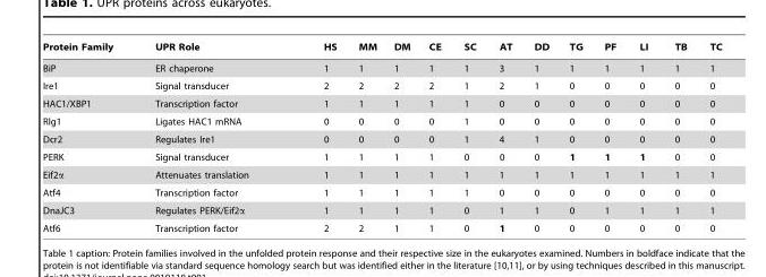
<table><thead><tr><td>Protein Family</td><td>UPR Role</td><td>HS</td><td>MM</td><td>DM</td><td>CE</td><td>SC</td><td>AT</td><td>DD</td><td>TG</td><td>PF</td><td>LI</td><td>TB</td><td>TC</td></tr></thead><tbody><tr><td>BiP</td><td>ER chaperone</td><td>1</td><td>1</td><td>1</td><td>1</td><td>1</td><td>3</td><td>1</td><td>1</td><td>1</td><td>1</td><td>1</td><td>1</td></tr><tr><td>Ire1</td><td>Signal transducer</td><td>2</td><td>2</td><td>2</td><td>2</td><td>1</td><td>2</td><td>1</td><td>0</td><td>0</td><td>0</td><td>0</td><td>0</td></tr><tr><td>HAC1/XBP1</td><td>Transcription factor</td><td>1</td><td>1</td><td>1</td><td>1</td><td>1</td><td>0</td><td>0</td><td>0</td><td>0</td><td>0</td><td>0</td><td>0</td></tr><tr><td>Rlg1</td><td>Ligates HAC1 mRNA</td><td>0</td><td>0</td><td>0</td><td>0</td><td>1</td><td>0</td><td>0</td><td>0</td><td>0</td><td>0</td><td>0</td><td>0</td></tr><tr><td>Dcr2</td><td>Regulates Ire1</td><td>0</td><td>0</td><td>0</td><td>0</td><td>1</td><td>4</td><td>1</td><td>0</td><td>0</td><td>0</td><td>0</td><td>0</td></tr><tr><td>PERK</td><td>Signal transducer</td><td>1</td><td>1</td><td>1</td><td>1</td><td>0</td><td>0</td><td>0</td><td>1</td><td>1</td><td>1</td><td>0</td><td>0</td></tr><tr><td>Eif2α</td><td>Attenuates translation</td><td>1</td><td>1</td><td>1</td><td>1</td><td>1</td><td>1</td><td>1</td><td>1</td><td>1</td><td>1</td><td>1</td><td>1</td></tr><tr><td>Atf4</td><td>Transcription factor</td><td>1</td><td>1</td><td>1</td><td>1</td><td>1</td><td>0</td><td>0</td><td>0</td><td>0</td><td>0</td><td>0</td><td>0</td></tr><tr><td>DnaJC3</td><td>Regulates PERK/Eif2α</td><td>1</td><td>1</td><td>1</td><td>1</td><td>0</td><td>1</td><td>1</td><td>0</td><td>1</td><td>1</td><td>1</td><td>1</td></tr><tr><td>Atf6</td><td>Transcription factor</td><td>2</td><td>2</td><td>1</td><td>1</td><td>0</td><td>1</td><td>0</td><td>0</td><td>0</td><td>0</td><td>0</td><td>0</td></tr></tbody></table>